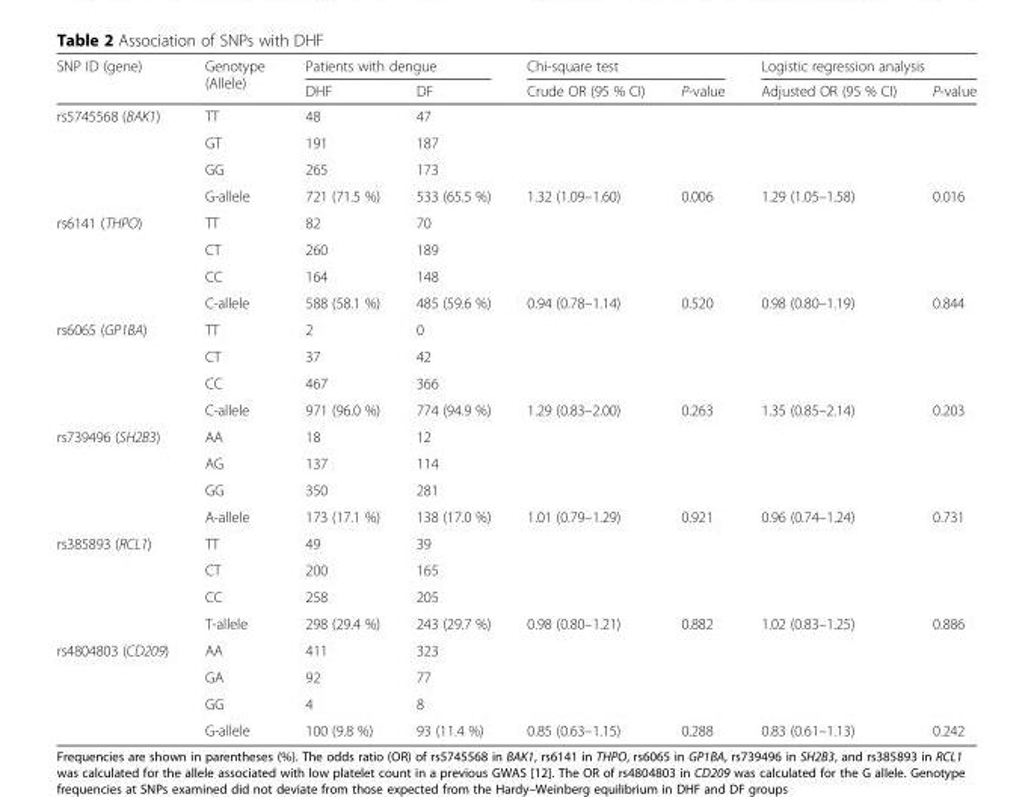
<table><thead><tr><td rowspan="2">SNP ID (gene)</td><td rowspan="2">Genotype (Allele)</td><td colspan="2">Patients with dengue</td><td colspan="2">Chi-square test</td><td colspan="2">Logistic regression analysis</td></tr><tr><td>DHF</td><td>DF</td><td>Crude OR (95 % CI)</td><td>P-value</td><td>Adjusted OR (95 % CI)</td><td>P-value</td></tr></thead><tbody><tr><td rowspan="4">rs5745568 (BAK1)</td><td>TT</td><td>48</td><td>47</td><td rowspan="3"></td><td rowspan="3"></td><td rowspan="3"></td><td rowspan="3"></td></tr><tr><td>GT</td><td>191</td><td>187</td></tr><tr><td>GG</td><td>265</td><td>173</td></tr><tr><td>G-allele</td><td>721 (71.5 %)</td><td>533 (65.5 %)</td><td>1.32 (1.09–1.60)</td><td>0.006</td><td>1.29 (1.05–1.58)</td><td>0.016</td></tr><tr><td rowspan="4">rs6141 (THPO)</td><td>TT</td><td>82</td><td>70</td><td rowspan="3"></td><td rowspan="3"></td><td rowspan="3"></td><td rowspan="3"></td></tr><tr><td>CT</td><td>260</td><td>189</td></tr><tr><td>CC</td><td>164</td><td>148</td></tr><tr><td>C-allele</td><td>588 (58.1 %)</td><td>485 (59.6 %)</td><td>0.94 (0.78–1.14)</td><td>0.520</td><td>0.98 (0.80–1.19)</td><td>0.844</td></tr><tr><td rowspan="4">rs6065 (GP1BA)</td><td>TT</td><td>2</td><td>0</td><td rowspan="3"></td><td rowspan="3"></td><td rowspan="3"></td><td rowspan="3"></td></tr><tr><td>CT</td><td>37</td><td>42</td></tr><tr><td>CC</td><td>467</td><td>366</td></tr><tr><td>C-allele</td><td>971 (96.0 %)</td><td>774 (94.9 %)</td><td>1.29 (0.83–2.00)</td><td>0.263</td><td>1.35 (0.85–2.14)</td><td>0.203</td></tr><tr><td rowspan="4">rs739496 (SH2B3)</td><td>AA</td><td>18</td><td>12</td><td rowspan="3"></td><td rowspan="3"></td><td rowspan="3"></td><td rowspan="3"></td></tr><tr><td>AG</td><td>137</td><td>114</td></tr><tr><td>GG</td><td>350</td><td>281</td></tr><tr><td>A-allele</td><td>173 (17.1 %)</td><td>138 (17.0 %)</td><td>1.01 (0.79–1.29)</td><td>0.921</td><td>0.96 (0.74–1.24)</td><td>0.731</td></tr><tr><td rowspan="4">rs385893 (RCL1)</td><td>TT</td><td>49</td><td>39</td><td rowspan="3"></td><td rowspan="3"></td><td rowspan="3"></td><td rowspan="3"></td></tr><tr><td>CT</td><td>200</td><td>165</td></tr><tr><td>CC</td><td>258</td><td>205</td></tr><tr><td>T-allele</td><td>298 (29.4 %)</td><td>243 (29.7 %)</td><td>0.98 (0.80–1.21)</td><td>0.882</td><td>1.02 (0.83–1.25)</td><td>0.886</td></tr><tr><td rowspan="4">rs4804803 (CD209)</td><td>AA</td><td>411</td><td>323</td><td rowspan="3"></td><td rowspan="3"></td><td rowspan="3"></td><td rowspan="3"></td></tr><tr><td>GA</td><td>92</td><td>77</td></tr><tr><td>GG</td><td>4</td><td>8</td></tr><tr><td>G-allele</td><td>100 (9.8 %)</td><td>93 (11.4 %)</td><td>0.85 (0.63–1.15)</td><td>0.288</td><td>0.83 (0.61–1.13)</td><td>0.242</td></tr></tbody></table>